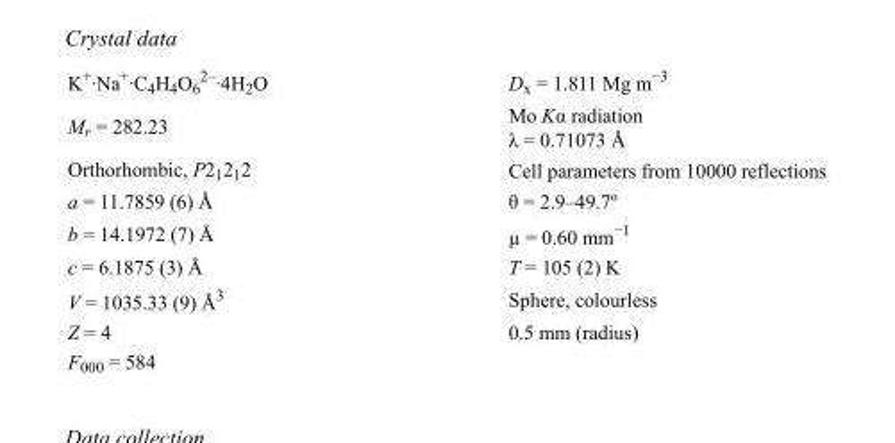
<table><tbody><tr><td>K<sup>+</sup>·Na<sup>+</sup>·C<sub>4</sub>H<sub>4</sub>O<sub>6</sub> <sup>2–</sup>·4H<sub>2</sub>O</td><td>D<sub>x</sub> = 1.811 Mg m<sup>−3</sup></td></tr><tr><td>M<sub>r</sub> = 282.23</td><td>Mo Kα radiation λ = 0.71073 Å</td></tr><tr><td>Orthorhombic, P2<sub>1</sub>2<sub>1</sub>2</td><td>Cell parameters from 10000 reflections</td></tr><tr><td>a = 11.7859 (6) Å</td><td>θ = 2.9–49.7º</td></tr><tr><td>b = 14.1972 (7) Å</td><td>µ = 0.60 mm<sup>−1</sup></td></tr><tr><td>c = 6.1875 (3) Å</td><td>T = 105 (2) K</td></tr><tr><td>V = 1035.33 (9) Å<sup>3</sup></td><td>Sphere, colourless</td></tr><tr><td>Z = 4</td><td>0.5 mm (radius)</td></tr><tr><td>F<sub>000</sub> = 584</td><td></td></tr></tbody></table>